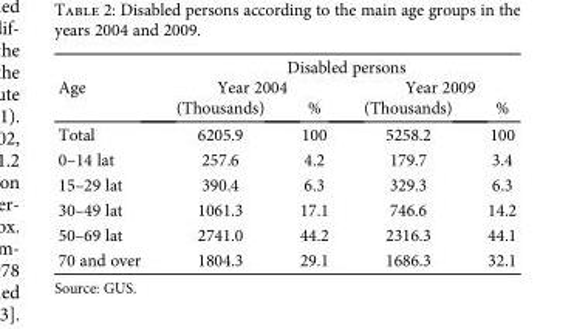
<table><thead><tr><td rowspan="3">Age</td><td colspan="4">Disabled persons</td></tr><tr><td colspan="2">Year 2004</td><td colspan="2">Year 2009</td></tr><tr><td>(Thousands)</td><td>%</td><td>(Thousands)</td><td>%</td></tr></thead><tbody><tr><td>Total</td><td>6205.9</td><td>100</td><td>5258.2</td><td>100</td></tr><tr><td>0–14 lat</td><td>257.6</td><td>4.2</td><td>179.7</td><td>3.4</td></tr><tr><td>15–29 lat</td><td>390.4</td><td>6.3</td><td>329.3</td><td>6.3</td></tr><tr><td>30–49 lat</td><td>1061.3</td><td>17.1</td><td>746.6</td><td>14.2</td></tr><tr><td>50–69 lat</td><td>2741.0</td><td>44.2</td><td>2316.3</td><td>44.1</td></tr><tr><td>70 and over</td><td>1804.3</td><td>29.1</td><td>1686.3</td><td>32.1</td></tr></tbody></table>